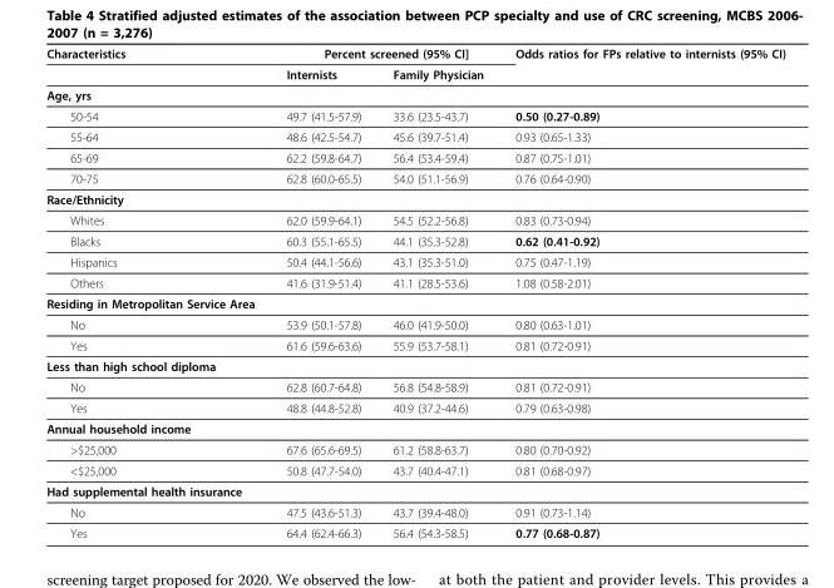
<table><thead><tr><td rowspan="2">Characteristics</td><td colspan="2">Percent screened (95% CI]</td><td rowspan="2">Odds ratios for FPs relative to internists (95% CI)</td></tr><tr><td>Internists</td><td>Family Physician</td></tr></thead><tbody><tr><td colspan="4">Age, yrs</td></tr><tr><td>50-54</td><td>49.7 (41.5-57.9)</td><td>33.6 (23.5-43.7)</td><td>0.50 (0.27-0.89)</td></tr><tr><td>55-64</td><td>48.6 (42.5-54.7)</td><td>45.6 (39.7-51.4)</td><td>0.93 (0.65-1.33)</td></tr><tr><td>65-69</td><td>62.2 (59.8-64.7)</td><td>56.4 (53.4-59.4)</td><td>0.87 (0.75-1.01)</td></tr><tr><td>70-75</td><td>62.8 (60.0-65.5)</td><td>54.0 (51.1-56.9)</td><td>0.76 (0.64-0.90)</td></tr><tr><td colspan="4">Race/Ethnicity</td></tr><tr><td>Whites</td><td>62.0 (59.9-64.1)</td><td>54.5 (52.2-56.8)</td><td>0.83 (0.73-0.94)</td></tr><tr><td>Blacks</td><td>60.3 (55.1-65.5)</td><td>44.1 (35.3-52.8)</td><td>0.62 (0.41-0.92)</td></tr><tr><td>Hispanics</td><td>50.4 (44.1-56.6)</td><td>43.1 (35.3-51.0)</td><td>0.75 (0.47-1.19)</td></tr><tr><td>Others</td><td>41.6 (31.9-51.4)</td><td>41.1 (28.5-53.6)</td><td>1.08 (0.58-2.01)</td></tr><tr><td colspan="4">Residing in Metropolitan Service Area</td></tr><tr><td>No</td><td>53.9 (50.1-57.8)</td><td>46.0 (41.9-50.0)</td><td>0.80 (0.63-1.01)</td></tr><tr><td>Yes</td><td>61.6 (59.6-63.6)</td><td>55.9 (53.7-58.1)</td><td>0.81 (0.72-0.91)</td></tr><tr><td colspan="4">Less than high school diploma</td></tr><tr><td>No</td><td>62.8 (60.7-64.8)</td><td>56.8 (54.8-58.9)</td><td>0.81 (0.72-0.91)</td></tr><tr><td>Yes</td><td>48.8 (44.8-52.8)</td><td>40.9 (37.2-44.6)</td><td>0.79 (0.63-0.98)</td></tr><tr><td colspan="4">Annual household income</td></tr><tr><td>&gt;$25,000</td><td>67.6 (65.6-69.5)</td><td>61.2 (58.8-63.7)</td><td>0.80 (0.70-0.92)</td></tr><tr><td>&lt;$25,000</td><td>50.8 (47.7-54.0)</td><td>43.7 (40.4-47.1)</td><td>0.81 (0.68-0.97)</td></tr><tr><td colspan="4">Had supplemental health insurance</td></tr><tr><td>No</td><td>47.5 (43.6-51.3)</td><td>43.7 (39.4-48.0)</td><td>0.91 (0.73-1.14)</td></tr><tr><td>Yes</td><td>64.4 (62.4-66.3)</td><td>56.4 (54.3-58.5)</td><td>0.77 (0.68-0.87)</td></tr></tbody></table>